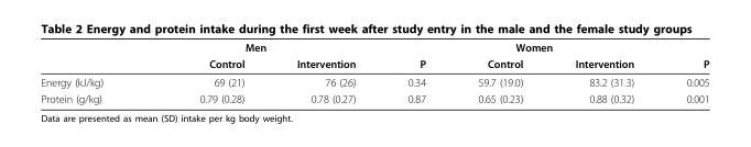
<table><thead><tr><td rowspan="2"></td><td colspan="2">Men</td><td rowspan="2">P</td><td colspan="2">Women</td><td rowspan="2">P</td></tr><tr><td>Control</td><td>Intervention</td><td>Control</td><td>Intervention</td></tr></thead><tbody><tr><td>Energy (kJ/kg)</td><td>69 (21)</td><td>76 (26)</td><td>0.34</td><td>59.7 (19.0)</td><td>83.2 (31.3)</td><td>0.005</td></tr><tr><td>Protein (g/kg)</td><td>0.79 (0.28)</td><td>0.78 (0.27)</td><td>0.87</td><td>0.65 (0.23)</td><td>0.88 (0.32)</td><td>0.001</td></tr></tbody></table>